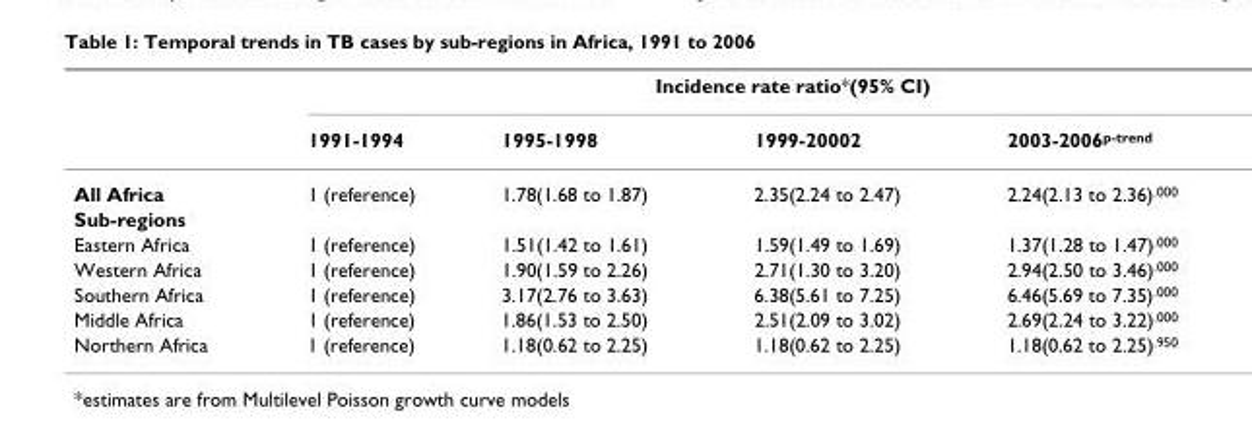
<table><thead><tr><td rowspan="2"></td><td colspan="4">Incidence rate ratio*(95% CI)</td></tr><tr><td>1991-1994</td><td>1995-1998</td><td>1999-20002</td><td>2003-2006<sup>p-trend</sup></td></tr></thead><tbody><tr><td>All Africa</td><td>1 (reference)</td><td>1.78(1.68 to 1.87)</td><td>2.35(2.24 to 2.47)</td><td>2.24(2.13 to 2.36)<sup>.000</sup></td></tr><tr><td colspan="5">Sub-regions</td></tr><tr><td>Eastern Africa</td><td>1 (reference)</td><td>1.51(1.42 to 1.61)</td><td>1.59(1.49 to 1.69)</td><td>1.37(1.28 to 1.47)<sup>.000</sup></td></tr><tr><td>Western Africa</td><td>1 (reference)</td><td>1.90(1.59 to 2.26)</td><td>2.71(1.30 to 3.20)</td><td>2.94(2.50 to 3.46)<sup>.000</sup></td></tr><tr><td>Southern Africa</td><td>1 (reference)</td><td>3.17(2.76 to 3.63)</td><td>6.38(5.61 to 7.25)</td><td>6.46(5.69 to 7.35)<sup>.000</sup></td></tr><tr><td>Middle Africa</td><td>1 (reference)</td><td>1.86(1.53 to 2.50)</td><td>2.51(2.09 to 3.02)</td><td>2.69(2.24 to 3.22)<sup>.000</sup></td></tr><tr><td>Northern Africa</td><td>1 (reference)</td><td>1.18(0.62 to 2.25)</td><td>1.18(0.62 to 2.25)</td><td>1.18(0.62 to 2.25)<sup>.950</sup></td></tr></tbody></table>